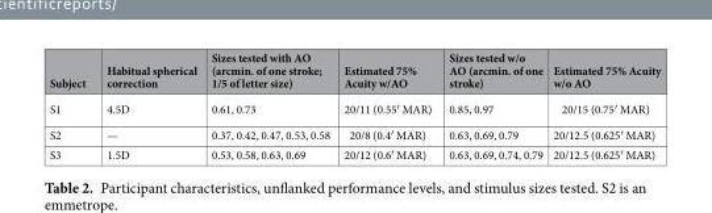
<table><thead><tr><td>Subject</td><td>Habitual spherical correction</td><td>Sizes tested with AO (arcmin. of one stroke; 1/5 of letter size)</td><td>Estimated 75% Acuity w/AO</td><td>Sizes tested w/o AO (arcmin. of one stroke)</td><td>Estimated 75% Acuity w/o AO</td></tr></thead><tbody><tr><td>S1</td><td>4.5D</td><td>0.61, 0.73</td><td>20/11 (0.55′ MAR)</td><td>0.85, 0.97</td><td>20/15 (0.75′ MAR)</td></tr><tr><td>S2</td><td>—</td><td>0.37, 0.42, 0.47, 0.53, 0.58</td><td>20/8 (0.4′ MAR)</td><td>0.63, 0.69, 0.79</td><td>20/12.5 (0.625′ MAR)</td></tr><tr><td>S3</td><td>1.5D</td><td>0.53, 0.58, 0.63, 0.69</td><td>20/12 (0.6′ MAR)</td><td>0.63, 0.69, 0.74, 0.79</td><td>20/12.5 (0.625′ MAR)</td></tr></tbody></table>